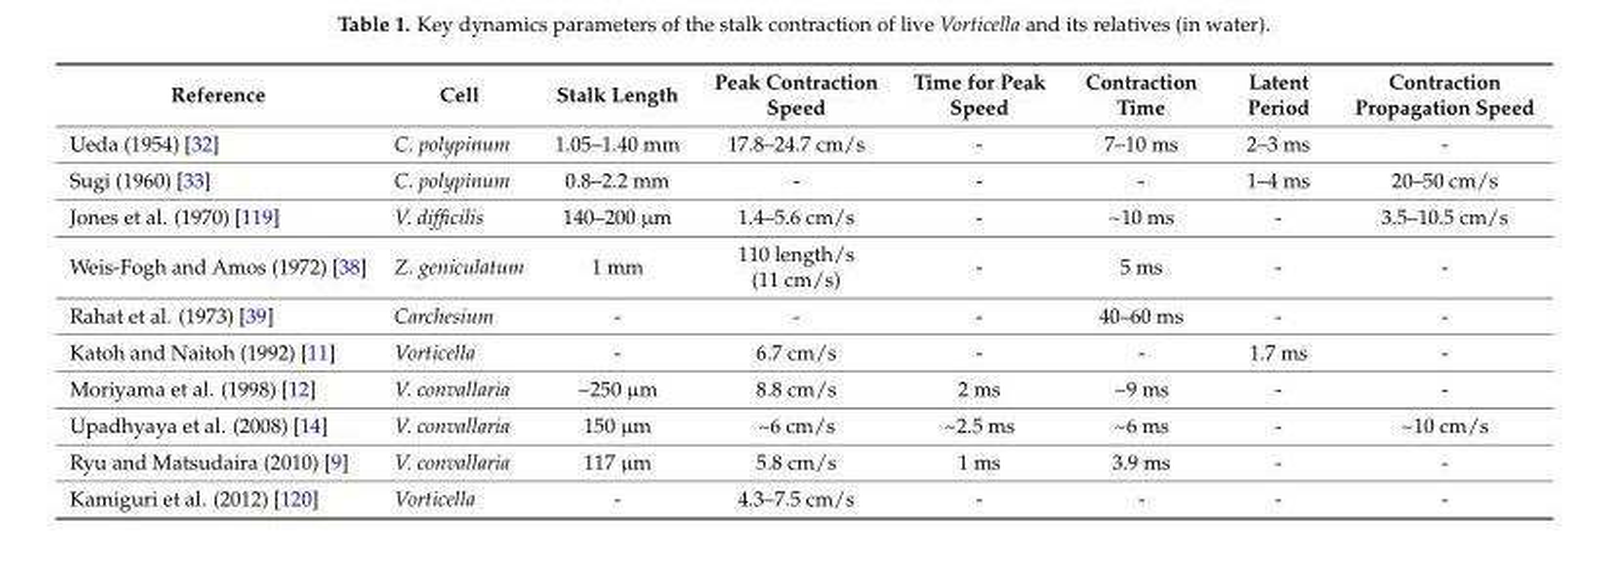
<table><thead><tr><td>Reference</td><td>Cell</td><td>Stalk Length</td><td>Peak Contraction Speed</td><td>Time for Peak Speed</td><td>Contraction Time</td><td>Latent Period</td><td>Contraction Propagation Speed</td></tr></thead><tbody><tr><td>Ueda (1954) [32]</td><td>C. polypinum</td><td>1.05–1.40 mm</td><td>17.8–24.7 cm/s</td><td>-</td><td>7–10 ms</td><td>2–3 ms</td><td>-</td></tr><tr><td>Sugi (1960) [33]</td><td>C. polypinum</td><td>0.8–2.2 mm</td><td>-</td><td>-</td><td>-</td><td>1–4 ms</td><td>20–50 cm/s</td></tr><tr><td>Jones et al. (1970) [119]</td><td>V. difficilis</td><td>140–200 µm</td><td>1.4–5.6 cm/s</td><td>-</td><td>~10 ms</td><td>-</td><td>3.5–10.5 cm/s</td></tr><tr><td>Weis-Fogh and Amos (1972) [38]</td><td>Z. geniculatum</td><td>1 mm</td><td>110 length/s (11 cm/s)</td><td>-</td><td>5 ms</td><td>-</td><td>-</td></tr><tr><td>Rahat et al. (1973) [39]</td><td>Carchesium</td><td>-</td><td>-</td><td>-</td><td>40–60 ms</td><td>-</td><td>-</td></tr><tr><td>Katoh and Naitoh (1992) [11]</td><td>Vorticella</td><td>-</td><td>6.7 cm/s</td><td>-</td><td>-</td><td>1.7 ms</td><td>-</td></tr><tr><td>Moriyama et al. (1998) [12]</td><td>V. convallaria</td><td>~250 µm</td><td>8.8 cm/s</td><td>2 ms</td><td>~9 ms</td><td>-</td><td>-</td></tr><tr><td>Upadhyaya et al. (2008) [14]</td><td>V. convallaria</td><td>150 µm</td><td>~6 cm/s</td><td>~2.5 ms</td><td>~6 ms</td><td>-</td><td>~10 cm/s</td></tr><tr><td>Ryu and Matsudaira (2010) [9]</td><td>V. convallaria</td><td>117 µm</td><td>5.8 cm/s</td><td>1 ms</td><td>3.9 ms</td><td>-</td><td>-</td></tr><tr><td>Kamiguri et al. (2012) [120]</td><td>Vorticella</td><td>-</td><td>4.3–7.5 cm/s</td><td>-</td><td>-</td><td>-</td><td>-</td></tr></tbody></table>